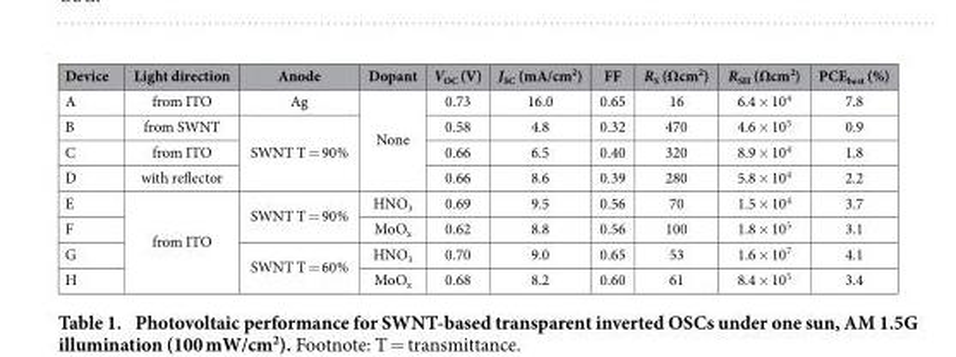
<table><thead><tr><td>Device</td><td>Light direction</td><td>Anode</td><td>Dopant</td><td>V<sub>OC</sub> (V)</td><td>J<sub>SC</sub> (mA/cm<sup>2</sup>)</td><td>FF</td><td>R<sub>S</sub> (Ωcm<sup>2</sup>)</td><td>R<sub>SH</sub> (Ωcm<sup>2</sup>)</td><td>PCE<sub>best</sub> (%)</td></tr></thead><tbody><tr><td>A</td><td>from ITO</td><td>Ag</td><td rowspan="4">None</td><td>0.73</td><td>16.0</td><td>0.65</td><td>16</td><td>6.4 × 10<sup>4</sup></td><td>7.8</td></tr><tr><td>B</td><td>from SWNT</td><td rowspan="3">SWNT T = 90%</td><td>0.58</td><td>4.8</td><td>0.32</td><td>470</td><td>4.6 × 10<sup>5</sup></td><td>0.9</td></tr><tr><td>C</td><td>from ITO</td><td>0.66</td><td>6.5</td><td>0.40</td><td>320</td><td>8.9 × 10<sup>4</sup></td><td>1.8</td></tr><tr><td>D</td><td>with reflector</td><td>0.66</td><td>8.6</td><td>0.39</td><td>280</td><td>5.8 × 10<sup>4</sup></td><td>2.2</td></tr><tr><td>E</td><td rowspan="4">from ITO</td><td rowspan="2">SWNT T = 90%</td><td>HNO<sub>3</sub></td><td>0.69</td><td>9.5</td><td>0.56</td><td>70</td><td>1.5 × 10<sup>4</sup></td><td>3.7</td></tr><tr><td>F</td><td>MoO<sub>x</sub></td><td>0.62</td><td>8.8</td><td>0.56</td><td>100</td><td>1.8 × 10<sup>5</sup></td><td>3.1</td></tr><tr><td>G</td><td rowspan="2">SWNT T = 60%</td><td>HNO<sub>3</sub></td><td>0.70</td><td>9.0</td><td>0.65</td><td>53</td><td>1.6 × 10<sup>7</sup></td><td>4.1</td></tr><tr><td>H</td><td>MoO<sub>x</sub></td><td>0.68</td><td>8.2</td><td>0.60</td><td>61</td><td>8.4 × 10<sup>5</sup></td><td>3.4</td></tr></tbody></table>